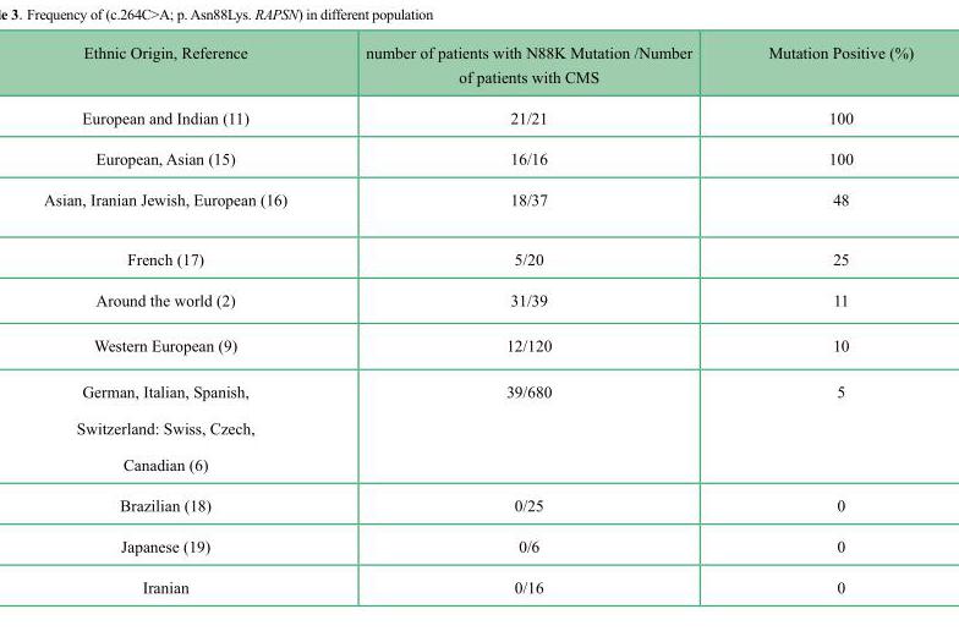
<table><thead><tr><td>Ethnic Origin, Reference</td><td>number of patients with N88K Mutation /Number of patients with CMS</td><td>Mutation Positive (%)</td></tr></thead><tbody><tr><td>European and Indian (11)</td><td>21/21</td><td>100</td></tr><tr><td>European, Asian (15)</td><td>16/16</td><td>100</td></tr><tr><td>Asian, Iranian Jewish, European (16)</td><td>18/37</td><td>48</td></tr><tr><td>French (17)</td><td>5/20</td><td>25</td></tr><tr><td>Around the world (2)</td><td>31/39</td><td>11</td></tr><tr><td>Western European (9)</td><td>12/120</td><td>10</td></tr><tr><td>German, Italian, Spanish, Switzerland: Swiss, Czech, Canadian (6)</td><td>39/680</td><td>5</td></tr><tr><td>Brazilian (18)</td><td>0/25</td><td>0</td></tr><tr><td>Japanese (19)</td><td>0/6</td><td>0</td></tr><tr><td>Iranian</td><td>0/16</td><td>0</td></tr></tbody></table>